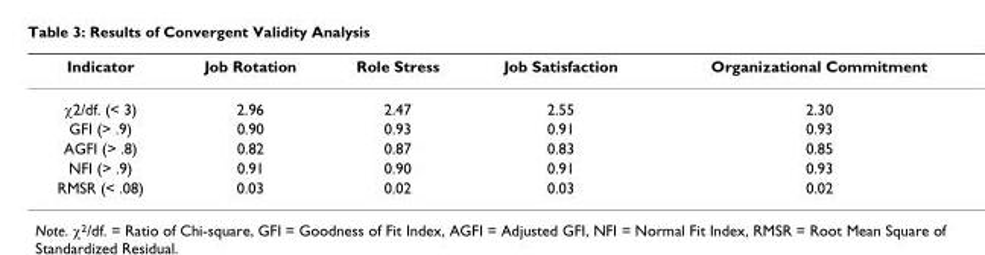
<table><thead><tr><td>Indicator</td><td>Job Rotation</td><td>Role Stress</td><td>Job Satisfaction</td><td>Organizational Commitment</td></tr></thead><tbody><tr><td>χ2/df. (&lt; 3)</td><td>2.96</td><td>2.47</td><td>2.55</td><td>2.30</td></tr><tr><td>GFI (&gt; .9)</td><td>0.90</td><td>0.93</td><td>0.91</td><td>0.93</td></tr><tr><td>AGFI (&gt; .8)</td><td>0.82</td><td>0.87</td><td>0.83</td><td>0.85</td></tr><tr><td>NFI (&gt; .9)</td><td>0.91</td><td>0.90</td><td>0.91</td><td>0.93</td></tr><tr><td>RMSR (&lt; .08)</td><td>0.03</td><td>0.02</td><td>0.03</td><td>0.02</td></tr></tbody></table>